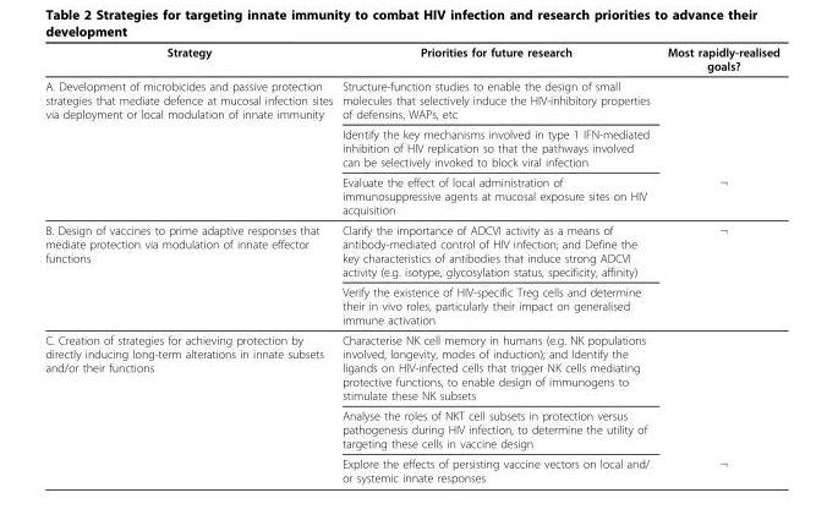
<table><thead><tr><td>Strategy</td><td>Priorities for future research</td><td>Most rapidly-realised goals?</td></tr></thead><tbody><tr><td rowspan="3">A. Development of microbicides and passive protection strategies that mediate defence at mucosal infection sites via deployment or local modulation of innate immunity</td><td>Structure-function studies to enable the design of small molecules that selectively induce the HIV-inhibitory properties of defensins, WAPs, etc</td><td></td></tr><tr><td>Identify the key mechanisms involved in type 1 IFN-mediated inhibition of HIV replication so that the pathways involved can be selectively invoked to block viral infection</td><td></td></tr><tr><td>Evaluate the effect of local administration of immunosuppressive agents at mucosal exposure sites on HIV acquisition</td><td>¬</td></tr><tr><td rowspan="2">B. Design of vaccines to prime adaptive responses that mediate protection via modulation of innate effector functions</td><td>Clarify the importance of ADCVI activity as a means of antibody-mediated control of HIV infection; and Define the key characteristics of antibodies that induce strong ADCVI activity (e.g. isotype, glycosylation status, specificity, affinity)</td><td>¬</td></tr><tr><td>Verify the existence of HIV-specific Treg cells and determine their in vivo roles, particularly their impact on generalised immune activation</td><td></td></tr><tr><td rowspan="3">C. Creation of strategies for achieving protection by directly inducing long-term alterations in innate subsets and/or their functions</td><td>Characterise NK cell memory in humans (e.g. NK populations involved, longevity, modes of induction); and Identify the ligands on HIV-infected cells that trigger NK cells mediating protective functions, to enable design of immunogens to stimulate these NK subsets</td><td></td></tr><tr><td>Analyse the roles of NKT cell subsets in protection versus pathogenesis during HIV infection, to determine the utility of targeting these cells in vaccine design</td><td></td></tr><tr><td>Explore the effects of persisting vaccine vectors on local and/ or systemic innate responses</td><td>¬</td></tr></tbody></table>